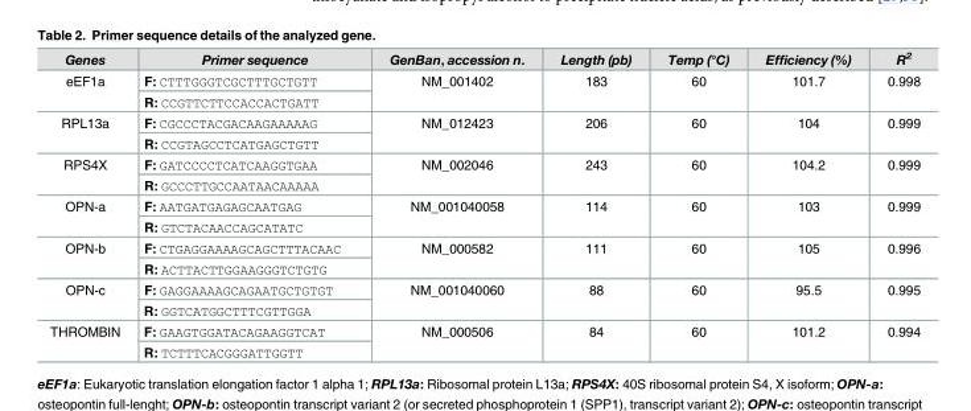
<table><thead><tr><td>Genes</td><td>Primer sequence</td><td>GenBan, accession n.</td><td>Length (pb)</td><td>Temp (°C)</td><td>Efficiency (%)</td><td>R<sup>2</sup></td></tr></thead><tbody><tr><td rowspan="2">eEF1a</td><td>F: CTTTGGGTCGCTTTGCTGTT</td><td rowspan="2">NM_001402</td><td rowspan="2">183</td><td rowspan="2">60</td><td rowspan="2">101.7</td><td rowspan="2">0.998</td></tr><tr><td>R: CCGTTCTTCCACCACTGATT</td></tr><tr><td rowspan="2">RPL13a</td><td>F: CGCCCTACGACAAGAAAAAG</td><td rowspan="2">NM_012423</td><td rowspan="2">206</td><td rowspan="2">60</td><td rowspan="2">104</td><td rowspan="2">0.999</td></tr><tr><td>R: CCGTAGCCTCATGAGCTGTT</td></tr><tr><td rowspan="2">RPS4X</td><td>F: GATCCCCTCATCAAGGTGAA</td><td rowspan="2">NM_002046</td><td rowspan="2">243</td><td rowspan="2">60</td><td rowspan="2">104.2</td><td rowspan="2">0.999</td></tr><tr><td>R: GCCCTTGCCAATAACAAAAA</td></tr><tr><td rowspan="2">OPN-a</td><td>F: AATGATGAGAGCAATGAG</td><td rowspan="2">NM_001040058</td><td rowspan="2">114</td><td rowspan="2">60</td><td rowspan="2">103</td><td rowspan="2">0.999</td></tr><tr><td>R: GTCTACAACCAGCATATC</td></tr><tr><td rowspan="2">OPN-b</td><td>F: CTGAGGAAAAGCAGCTTTACAAC</td><td rowspan="2">NM_000582</td><td rowspan="2">111</td><td rowspan="2">60</td><td rowspan="2">105</td><td rowspan="2">0.996</td></tr><tr><td>R: ACTTACTTGGAAGGGTCTGTG</td></tr><tr><td rowspan="2">OPN-c</td><td>F: GAGGAAAAGCAGAATGCTGTGT</td><td rowspan="2">NM_001040060</td><td rowspan="2">88</td><td rowspan="2">60</td><td rowspan="2">95.5</td><td rowspan="2">0.995</td></tr><tr><td>R: GGTCATGGCTTTCGTTGGA</td></tr><tr><td rowspan="2">THROMBIN</td><td>F: GAAGTGGATACAGAAGGTCAT</td><td rowspan="2">NM_000506</td><td rowspan="2">84</td><td rowspan="2">60</td><td rowspan="2">101.2</td><td rowspan="2">0.994</td></tr><tr><td>R: TCTTTCACGGGATTGGTT</td></tr></tbody></table>